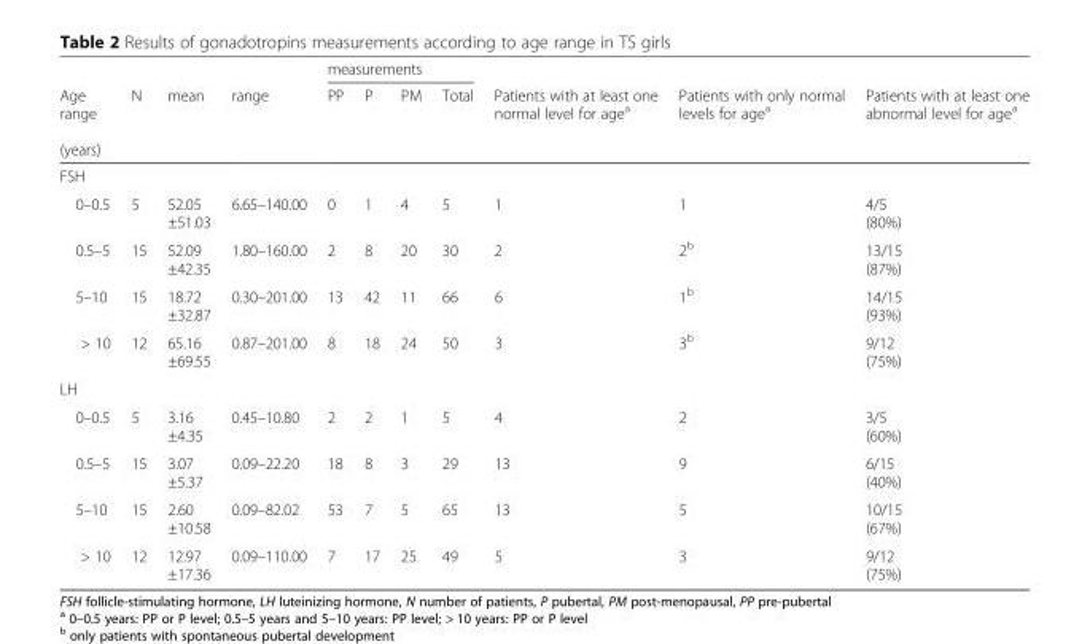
<table><thead><tr><td rowspan="2">Age range (years)</td><td rowspan="2">N</td><td rowspan="2">mean</td><td rowspan="2">range</td><td colspan="4">measurements</td><td rowspan="2">Patients with at least one normal level for age<sup>a</sup></td><td rowspan="2">Patients with only normal levels for age<sup>a</sup></td><td rowspan="2">Patients with at least one abnormal level for age<sup>a</sup></td></tr><tr><td>PP</td><td>P</td><td>PM</td><td>Total</td></tr></thead><tbody><tr><td colspan="11">FSH</td></tr><tr><td>0–0.5</td><td>5</td><td>52.05 ±51.03</td><td>6.65–140.00</td><td>0</td><td>1</td><td>4</td><td>5</td><td>1</td><td>1</td><td>4/5 (80%)</td></tr><tr><td>0.5–5</td><td>15</td><td>52.09 ±42.35</td><td>1.80–160.00</td><td>2</td><td>8</td><td>20</td><td>30</td><td>2</td><td>2<sup>b</sup></td><td>13/15 (87%)</td></tr><tr><td>5–10</td><td>15</td><td>18.72 ±32.87</td><td>0.30–201.00</td><td>13</td><td>42</td><td>11</td><td>66</td><td>6</td><td>1<sup>b</sup></td><td>14/15 (93%)</td></tr><tr><td>&gt; 10</td><td>12</td><td>65.16 ±69.55</td><td>0.87–201.00</td><td>8</td><td>18</td><td>24</td><td>50</td><td>3</td><td>3<sup>b</sup></td><td>9/12 (75%)</td></tr><tr><td colspan="11">LH</td></tr><tr><td>0–0.5</td><td>5</td><td>3.16 ±4.35</td><td>0.45–10.80</td><td>2</td><td>2</td><td>1</td><td>5</td><td>4</td><td>2</td><td>3/5 (60%)</td></tr><tr><td>0.5–5</td><td>15</td><td>3.07 ±5.37</td><td>0.09–22.20</td><td>18</td><td>8</td><td>3</td><td>29</td><td>13</td><td>9</td><td>6/15 (40%)</td></tr><tr><td>5–10</td><td>15</td><td>2.60 ±10.58</td><td>0.09–82.02</td><td>53</td><td>7</td><td>5</td><td>65</td><td>13</td><td>5</td><td>10/15 (67%)</td></tr><tr><td>&gt; 10</td><td>12</td><td>12.97 ±17.36</td><td>0.09–110.00</td><td>7</td><td>17</td><td>25</td><td>49</td><td>5</td><td>3</td><td>9/12 (75%)</td></tr></tbody></table>